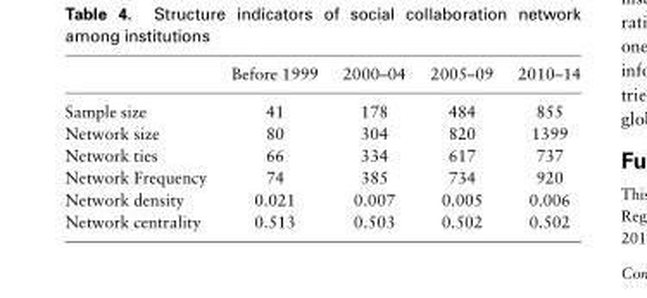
<table><thead><tr><td></td><td>Before 1999</td><td>2000–04</td><td>2005–09</td><td>2010–14</td></tr></thead><tbody><tr><td>Sample size</td><td>41</td><td>178</td><td>484</td><td>855</td></tr><tr><td>Network size</td><td>80</td><td>304</td><td>820</td><td>1399</td></tr><tr><td>Network ties</td><td>66</td><td>334</td><td>617</td><td>737</td></tr><tr><td>Network Frequency</td><td>74</td><td>385</td><td>734</td><td>920</td></tr><tr><td>Network density</td><td>0.021</td><td>0.007</td><td>0.005</td><td>0.006</td></tr><tr><td>Network centrality</td><td>0.513</td><td>0.503</td><td>0.502</td><td>0.502</td></tr></tbody></table>